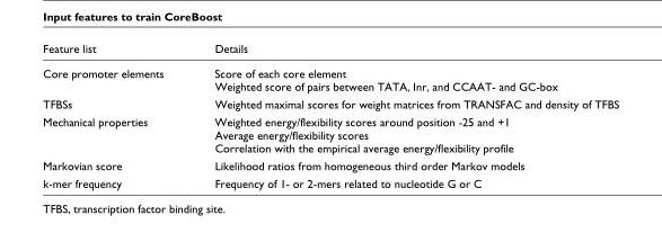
<table><thead><tr><td>Feature list</td><td>Details</td></tr></thead><tbody><tr><td>Core promoter elements</td><td>Score of each core element Weighted score of pairs between TATA, Inr, and CCAAT- and GC-box</td></tr><tr><td>TFBSs</td><td>Weighted maximal scores for weight matrices from TRANSFAC and density of TFBS</td></tr><tr><td>Mechanical properties</td><td>Weighted energy/flexibility scores around position -25 and +1 Average energy/flexibility scores Correlation with the empirical average energy/flexibility profile</td></tr><tr><td>Markovian score</td><td>Likelihood ratios from homogeneous third order Markov models</td></tr><tr><td>k-mer frequency</td><td>Frequency of 1- or 2-mers related to nucleotide G or C</td></tr></tbody></table>